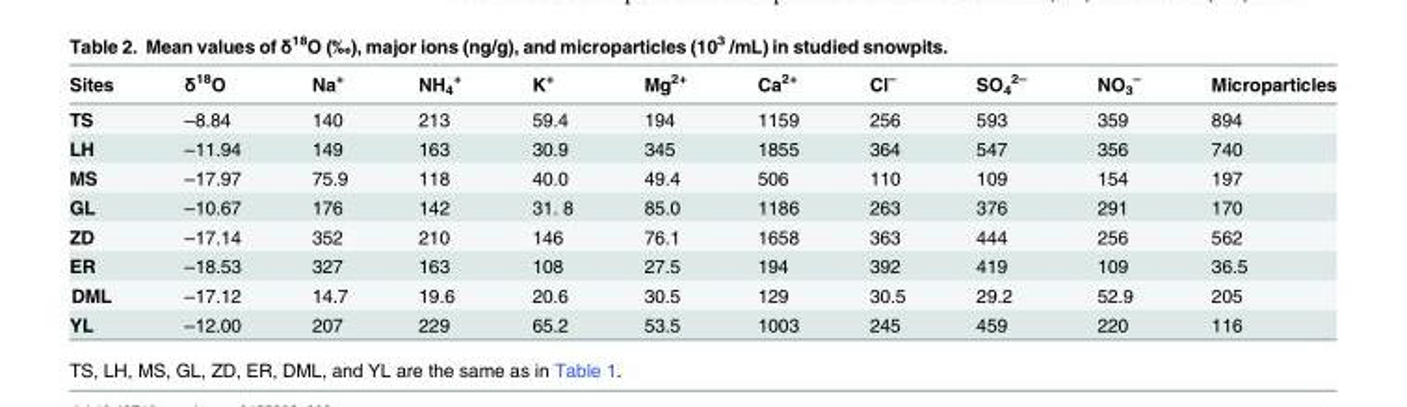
<table><thead><tr><td>Sites</td><td>δ<sup>18</sup>O</td><td>Na<sup>+</sup></td><td>NH<sub>4</sub> <sup>+</sup></td><td>K<sup>+</sup></td><td>Mg<sup>2+</sup></td><td>Ca<sup>2+</sup></td><td>Cl<sup>–</sup></td><td>SO<sub>4</sub> <sup>2–</sup></td><td>NO<sub>3</sub> <sup>–</sup></td><td>Microparticles</td></tr></thead><tbody><tr><td>TS</td><td>–8.84</td><td>140</td><td>213</td><td>59.4</td><td>194</td><td>1159</td><td>256</td><td>593</td><td>359</td><td>894</td></tr><tr><td>LH</td><td>–11.94</td><td>149</td><td>163</td><td>30.9</td><td>345</td><td>1855</td><td>364</td><td>547</td><td>356</td><td>740</td></tr><tr><td>MS</td><td>–17.97</td><td>75.9</td><td>118</td><td>40.0</td><td>49.4</td><td>506</td><td>110</td><td>109</td><td>154</td><td>197</td></tr><tr><td>GL</td><td>–10.67</td><td>176</td><td>142</td><td>31. 8</td><td>85.0</td><td>1186</td><td>263</td><td>376</td><td>291</td><td>170</td></tr><tr><td>ZD</td><td>–17.14</td><td>352</td><td>210</td><td>146</td><td>76.1</td><td>1658</td><td>363</td><td>444</td><td>256</td><td>562</td></tr><tr><td>ER</td><td>–18.53</td><td>327</td><td>163</td><td>108</td><td>27.5</td><td>194</td><td>392</td><td>419</td><td>109</td><td>36.5</td></tr><tr><td>DML</td><td>–17.12</td><td>14.7</td><td>19.6</td><td>20.6</td><td>30.5</td><td>129</td><td>30.5</td><td>29.2</td><td>52.9</td><td>205</td></tr><tr><td>YL</td><td>–12.00</td><td>207</td><td>229</td><td>65.2</td><td>53.5</td><td>1003</td><td>245</td><td>459</td><td>220</td><td>116</td></tr></tbody></table>